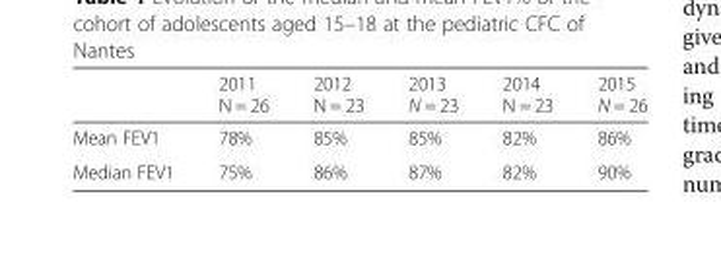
<table><thead><tr><td></td><td>2011 N = 26</td><td>2012 N = 23</td><td>2013 N = 23</td><td>2014 N = 23</td><td>2015 N = 26</td></tr></thead><tbody><tr><td>Mean FEV1</td><td>78%</td><td>85%</td><td>85%</td><td>82%</td><td>86%</td></tr><tr><td>Median FEV1</td><td>75%</td><td>86%</td><td>87%</td><td>82%</td><td>90%</td></tr></tbody></table>